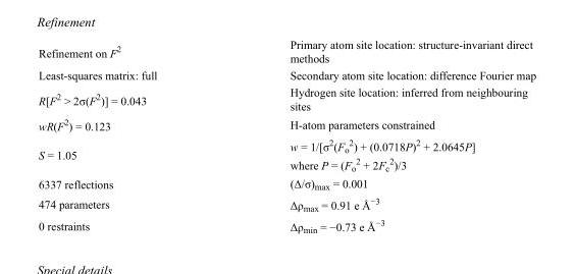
<table><tbody><tr><td>Refinement on F<sup>2</sup></td><td>Primary atom site location: structure-invariant direct methods</td></tr><tr><td>Least-squares matrix: full</td><td>Secondary atom site location: difference Fourier map</td></tr><tr><td>R[F<sup>2</sup> &gt; 2σ(F<sup>2</sup>)] = 0.043</td><td>Hydrogen site location: inferred from neighbouring sites</td></tr><tr><td>wR(F<sup>2</sup>) = 0.123</td><td>H-atom parameters constrained</td></tr><tr><td>S = 1.05</td><td>w = 1/[σ<sup>2</sup>(F<sub>o</sub> <sup>2</sup>) + (0.0718P)<sup>2</sup> + 2.0645P] where P = (F<sub>o</sub> <sup>2</sup> + 2F<sub>c</sub> <sup>2</sup>)/3</td></tr><tr><td>6337 reflections</td><td>(Δ/σ)<sub>max</sub> = 0.001</td></tr><tr><td>474 parameters</td><td>Δρ<sub>max</sub> = 0.91 e Å<sup>−3</sup></td></tr><tr><td>0 restraints</td><td>Δρ<sub>min</sub> = −0.73 e Å<sup>−3</sup></td></tr></tbody></table>